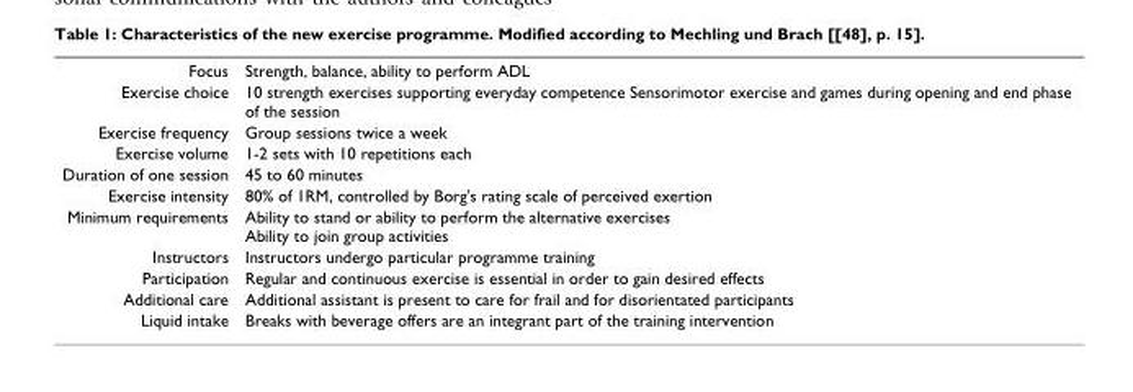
<table><tbody><tr><td>Focus</td><td>Strength, balance, ability to perform ADL</td></tr><tr><td>Exercise choice</td><td>10 strength exercises supporting everyday competence Sensorimotor exercise and games during opening and end phase of the session</td></tr><tr><td>Exercise frequency</td><td>Group sessions twice a week</td></tr><tr><td>Exercise volume</td><td>1-2 sets with 10 repetitions each</td></tr><tr><td>Duration of one session</td><td>45 to 60 minutes</td></tr><tr><td>Exercise intensity</td><td>80% of 1RM, controlled by Borg&#x27;s rating scale of perceived exertion</td></tr><tr><td>Minimum requirements</td><td>Ability to stand or ability to perform the alternative exercises Ability to join group activities</td></tr><tr><td>Instructors</td><td>Instructors undergo particular programme training</td></tr><tr><td>Participation</td><td>Regular and continuous exercise is essential in order to gain desired effects</td></tr><tr><td>Additional care</td><td>Additional assistant is present to care for frail and for disorientated participants</td></tr><tr><td>Liquid intake</td><td>Breaks with beverage offers are an integrant part of the training intervention</td></tr></tbody></table>